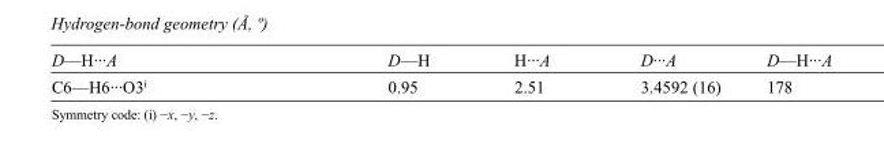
<table><tbody><tr><td>D—H···A</td><td>D—H</td><td>H···A</td><td>D···A</td><td>D—H···A</td></tr><tr><td>C6—H6···O3<sup>i</sup></td><td>0.95</td><td>2.51</td><td>3.4592 (16)</td><td>178</td></tr></tbody></table>